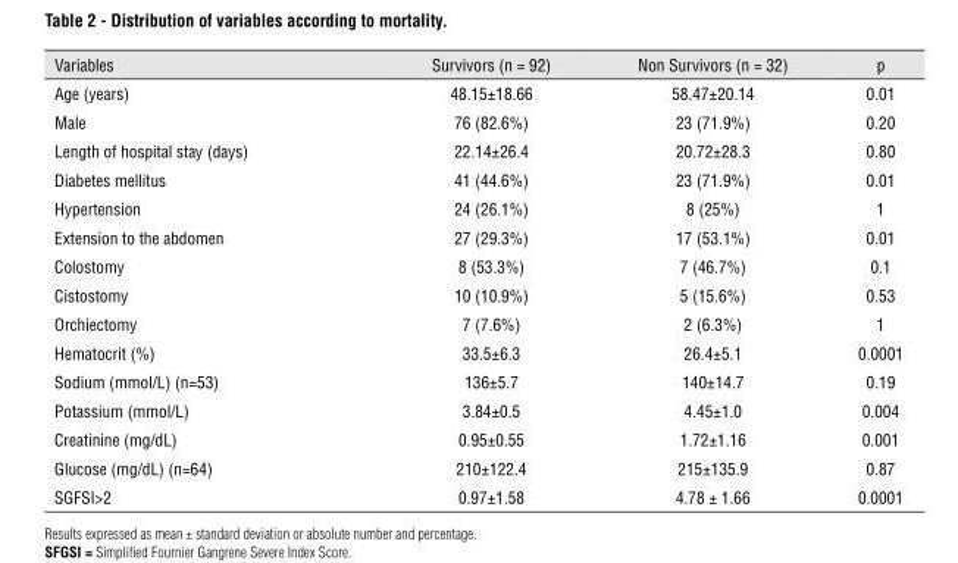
<table><thead><tr><td>Variables</td><td>Survivors (n = 92)</td><td>Non Survivors (n = 32)</td><td>p</td></tr></thead><tbody><tr><td>Age (years)</td><td>48.15±18.66</td><td>58.47±20.14</td><td>0.01</td></tr><tr><td>Male</td><td>76 (82.6%)</td><td>23 (71.9%)</td><td>0.20</td></tr><tr><td>Length of hospital stay (days)</td><td>22.14±26.4</td><td>20.72±28.3</td><td>0.80</td></tr><tr><td>Diabetes mellitus</td><td>41 (44.6%)</td><td>23 (71.9%)</td><td>0.01</td></tr><tr><td>Hypertension</td><td>24 (26.1%)</td><td>8 (25%)</td><td>1</td></tr><tr><td>Extension to the abdomen</td><td>27 (29.3%)</td><td>17 (53.1%)</td><td>0.01</td></tr><tr><td>Colostomy</td><td>8 (53.3%)</td><td>7 (46.7%)</td><td>0.1</td></tr><tr><td>Cistostomy</td><td>10 (10.9%)</td><td>5 (15.6%)</td><td>0.53</td></tr><tr><td>Orchiectomy</td><td>7 (7.6%)</td><td>2 (6.3%)</td><td>1</td></tr><tr><td>Hematocrit (%)</td><td>33.5±6.3</td><td>26.4±5.1</td><td>0.0001</td></tr><tr><td>Sodium (mmol/L) (n=53)</td><td>136±5.7</td><td>140±14.7</td><td>0.19</td></tr><tr><td>Potassium (mmol/L)</td><td>3.84±0.5</td><td>4.45±1.0</td><td>0.004</td></tr><tr><td>Creatinine (mg/dL)</td><td>0.95±0.55</td><td>1.72±1.16</td><td>0.001</td></tr><tr><td>Glucose (mg/dL) (n=64)</td><td>210±122.4</td><td>215±135.9</td><td>0.87</td></tr><tr><td>SGFSI&gt;2</td><td>0.97±1.58</td><td>4.78 ± 1.66</td><td>0.0001</td></tr></tbody></table>